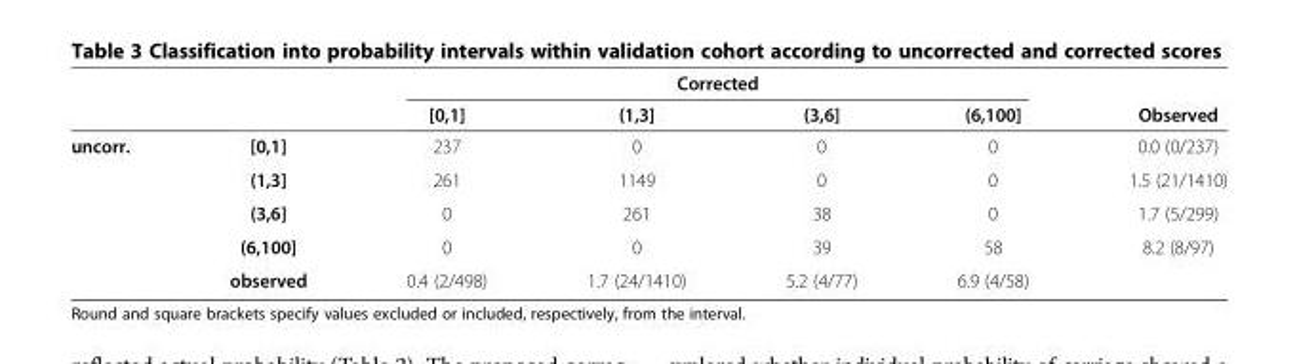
<table><thead><tr><td rowspan="2"></td><td rowspan="2"></td><td colspan="4">Corrected</td><td rowspan="2">Observed</td></tr><tr><td>[0,1]</td><td>(1,3]</td><td>(3,6]</td><td>(6,100]</td></tr></thead><tbody><tr><td rowspan="5">uncorr.</td><td>[0,1]</td><td>237</td><td>0</td><td>0</td><td>0</td><td>0.0 (0/237)</td></tr><tr><td>(1,3]</td><td>261</td><td>1149</td><td>0</td><td>0</td><td>1.5 (21/1410)</td></tr><tr><td>(3,6]</td><td>0</td><td>261</td><td>38</td><td>0</td><td>1.7 (5/299)</td></tr><tr><td>(6,100]</td><td>0</td><td>0</td><td>39</td><td>58</td><td>8.2 (8/97)</td></tr><tr><td>observed</td><td>0.4 (2/498)</td><td>1.7 (24/1410)</td><td>5.2 (4/77)</td><td>6.9 (4/58)</td><td></td></tr></tbody></table>